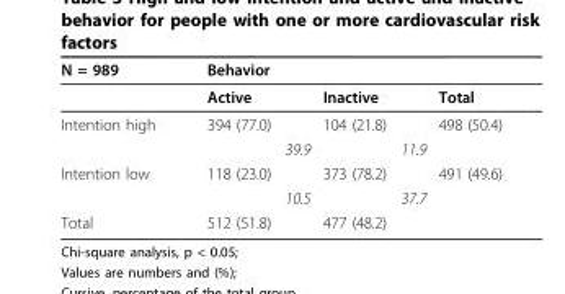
<table><thead><tr><td rowspan="2">N = 989</td><td colspan="2">Behavior</td><td rowspan="2">Total</td></tr><tr><td>Active</td><td>Inactive</td></tr></thead><tbody><tr><td rowspan="2">Intention high</td><td>394 (77.0)</td><td>104 (21.8)</td><td>498 (50.4)</td></tr><tr><td>39.9</td><td>11.9</td><td></td></tr><tr><td rowspan="2">Intention low</td><td>118 (23.0)</td><td>373 (78.2)</td><td>491 (49.6)</td></tr><tr><td>10.5</td><td>37.7</td><td></td></tr><tr><td>Total</td><td>512 (51.8)</td><td>477 (48.2)</td><td></td></tr></tbody></table>